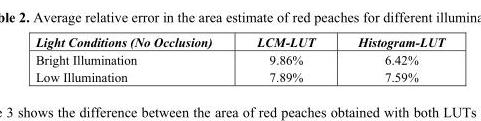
<table><thead><tr><td>Light Conditions (No Occlusion)</td><td>LCM-LUT</td><td>Histogram-LUT</td></tr></thead><tbody><tr><td>Bright Illumination</td><td>9.86%</td><td>6.42%</td></tr><tr><td>Low Illumination</td><td>7.89%</td><td>7.59%</td></tr></tbody></table>